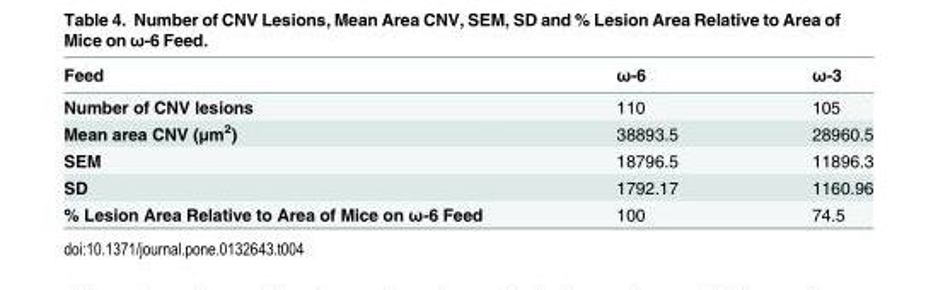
<table><thead><tr><td>Feed</td><td>ω-6</td><td>ω-3</td></tr></thead><tbody><tr><td>Number of CNV lesions</td><td>110</td><td>105</td></tr><tr><td>Mean area CNV (μm<sup>2</sup>)</td><td>38893.5</td><td>28960.5</td></tr><tr><td>SEM</td><td>18796.5</td><td>11896.3</td></tr><tr><td>SD</td><td>1792.17</td><td>1160.96</td></tr><tr><td>% Lesion Area Relative to Area of Mice on ω-6 Feed</td><td>100</td><td>74.5</td></tr></tbody></table>